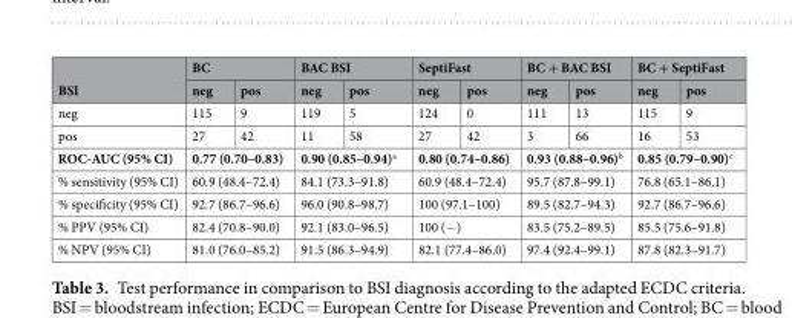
<table><thead><tr><td rowspan="2">BSI</td><td colspan="2">BC</td><td colspan="2">BAC BSI</td><td colspan="2">SeptiFast</td><td colspan="2">BC + BAC BSI</td><td colspan="2">BC + SeptiFast</td></tr><tr><td>neg</td><td>pos</td><td>neg</td><td>pos</td><td>neg</td><td>pos</td><td>neg</td><td>pos</td><td>neg</td><td>pos</td></tr></thead><tbody><tr><td>neg</td><td>115</td><td>9</td><td>119</td><td>5</td><td>124</td><td>0</td><td>111</td><td>13</td><td>115</td><td>9</td></tr><tr><td>pos</td><td>27</td><td>42</td><td>11</td><td>58</td><td>27</td><td>42</td><td>3</td><td>66</td><td>16</td><td>53</td></tr><tr><td>ROC-AUC (95% CI)</td><td colspan="2">0.77 (0.70–0.83)</td><td colspan="2">0.90 (0.85–0.94)<sup>a</sup></td><td colspan="2">0.80 (0.74–0.86)</td><td colspan="2">0.93 (0.88–0.96)<sup>b</sup></td><td colspan="2">0.85 (0.79–0.90)<sup>c</sup></td></tr><tr><td>% sensitivity (95% CI)</td><td colspan="2">60.9 (48.4–72.4)</td><td colspan="2">84.1 (73.3–91.8)</td><td colspan="2">60.9 (48.4–72.4)</td><td colspan="2">95.7 (87.8–99.1)</td><td colspan="2">76.8 (65.1–86.1)</td></tr><tr><td>% specificity (95% CI)</td><td colspan="2">92.7 (86.7–96.6)</td><td colspan="2">96.0 (90.8–98.7)</td><td colspan="2">100 (97.1–100)</td><td colspan="2">89.5 (82.7–94.3)</td><td colspan="2">92.7 (86.7–96.6)</td></tr><tr><td>% PPV (95% CI)</td><td colspan="2">82.4 (70.8–90.0)</td><td colspan="2">92.1 (83.0–96.5)</td><td colspan="2">100 (−)</td><td colspan="2">83.5 (75.2–89.5)</td><td colspan="2">85.5 (75.6–91.8)</td></tr><tr><td>% NPV (95% CI)</td><td colspan="2">81.0 (76.0–85.2)</td><td colspan="2">91.5 (86.3–94.9)</td><td colspan="2">82.1 (77.4–86.0)</td><td colspan="2">97.4 (92.4–99.1)</td><td colspan="2">87.8 (82.3–91.7)</td></tr></tbody></table>